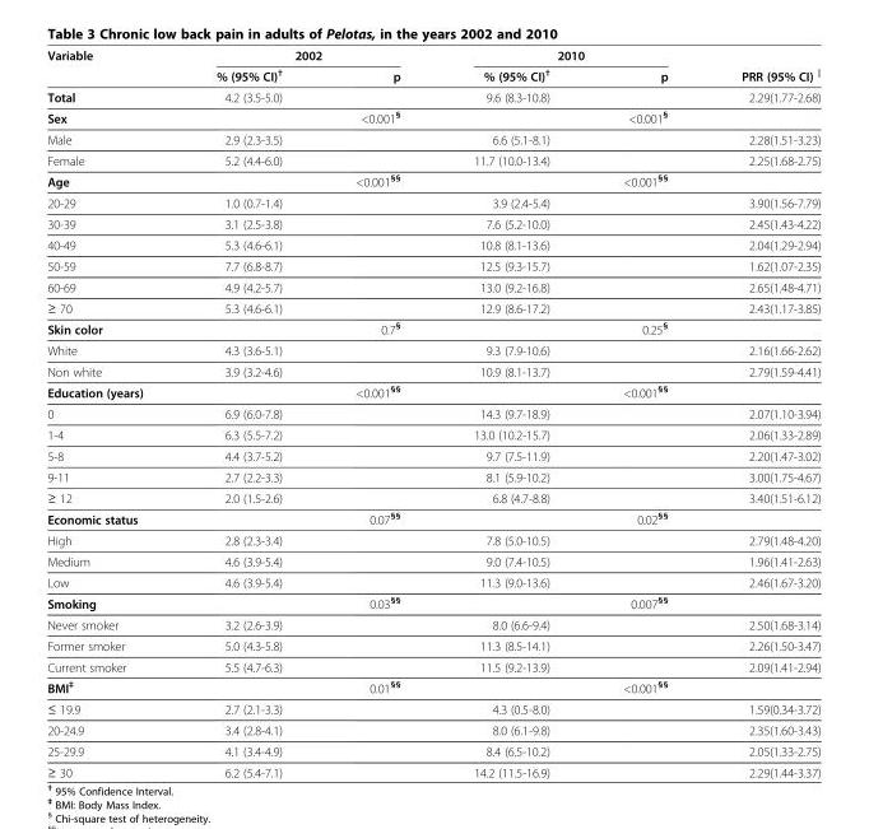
<table><thead><tr><td rowspan="2">Variable</td><td rowspan="2">% (95% CI)<sup>†</sup></td><td rowspan="2">2002 p</td><td rowspan="2">% (95% CI)<sup>†</sup></td><td rowspan="2">2010 p</td><td rowspan="2">PRR (95% CI) <sup>||</sup></td></tr><tr></tr></thead><tbody><tr><td>Total</td><td>4.2 (3.5-5.0)</td><td></td><td>9.6 (8.3-10.8)</td><td></td><td>2.29(1.77-2.68)</td></tr><tr><td>Sex</td><td></td><td>&lt;0.001<sup>§</sup></td><td></td><td>&lt;0.001<sup>§</sup></td><td></td></tr><tr><td>Male</td><td>2.9 (2.3-3.5)</td><td></td><td>6.6 (5.1-8.1)</td><td></td><td>2.28(1.51-3.23)</td></tr><tr><td>Female</td><td>5.2 (4.4-6.0)</td><td></td><td>11.7 (10.0-13.4)</td><td></td><td>2.25(1.68-2.75)</td></tr><tr><td>Age</td><td></td><td>&lt;0.001<sup>§§</sup></td><td></td><td>&lt;0.001<sup>§§</sup></td><td></td></tr><tr><td>20-29</td><td>1.0 (0.7-1.4)</td><td></td><td>3.9 (2.4-5.4)</td><td></td><td>3.90(1.56-7.79)</td></tr><tr><td>30-39</td><td>3.1 (2.5-3.8)</td><td></td><td>7.6 (5.2-10.0)</td><td></td><td>2.45(1.43-4.22)</td></tr><tr><td>40-49</td><td>5.3 (4.6-6.1)</td><td></td><td>10.8 (8.1-13.6)</td><td></td><td>2.04(1.29-2.94)</td></tr><tr><td>50-59</td><td>7.7 (6.8-8.7)</td><td></td><td>12.5 (9.3-15.7)</td><td></td><td>1.62(1.07-2.35)</td></tr><tr><td>60-69</td><td>4.9 (4.2-5.7)</td><td></td><td>13.0 (9.2-16.8)</td><td></td><td>2.65(1.48-4.71)</td></tr><tr><td>≥ 70</td><td>5.3 (4.6-6.1)</td><td></td><td>12.9 (8.6-17.2)</td><td></td><td>2.43(1.17-3.85)</td></tr><tr><td>Skin color</td><td></td><td>0.7<sup>§</sup></td><td></td><td>0.25<sup>§</sup></td><td></td></tr><tr><td>White</td><td>4.3 (3.6-5.1)</td><td></td><td>9.3 (7.9-10.6)</td><td></td><td>2.16(1.66-2.62)</td></tr><tr><td>Non white</td><td>3.9 (3.2-4.6)</td><td></td><td>10.9 (8.1-13.7)</td><td></td><td>2.79(1.59-4.41)</td></tr><tr><td>Education (years)</td><td></td><td>&lt;0.001<sup>§§</sup></td><td></td><td>&lt;0.001<sup>§§</sup></td><td></td></tr><tr><td>0</td><td>6.9 (6.0-7.8)</td><td></td><td>14.3 (9.7-18.9)</td><td></td><td>2.07(1.10-3.94)</td></tr><tr><td>1-4</td><td>6.3 (5.5-7.2)</td><td></td><td>13.0 (10.2-15.7)</td><td></td><td>2.06(1.33-2.89)</td></tr><tr><td>5-8</td><td>4.4 (3.7-5.2)</td><td></td><td>9.7 (7.5-11.9)</td><td></td><td>2.20(1.47-3.02)</td></tr><tr><td>9-11</td><td>2.7 (2.2-3.3)</td><td></td><td>8.1 (5.9-10.2)</td><td></td><td>3.00(1.75-4.67)</td></tr><tr><td>≥ 12</td><td>2.0 (1.5-2.6)</td><td></td><td>6.8 (4.7-8.8)</td><td></td><td>3.40(1.51-6.12)</td></tr><tr><td>Economic status</td><td></td><td>0.07<sup>§§</sup></td><td></td><td>0.02<sup>§§</sup></td><td></td></tr><tr><td>High</td><td>2.8 (2.3-3.4)</td><td></td><td>7.8 (5.0-10.5)</td><td></td><td>2.79(1.48-4.20)</td></tr><tr><td>Medium</td><td>4.6 (3.9-5.4)</td><td></td><td>9.0 (7.4-10.5)</td><td></td><td>1.96(1.41-2.63)</td></tr><tr><td>Low</td><td>4.6 (3.9-5.4)</td><td></td><td>11.3 (9.0-13.6)</td><td></td><td>2.46(1.67-3.20)</td></tr><tr><td>Smoking</td><td></td><td>0.03<sup>§§</sup></td><td></td><td>0.007<sup>§§</sup></td><td></td></tr><tr><td>Never smoker</td><td>3.2 (2.6-3.9)</td><td></td><td>8.0 (6.6-9.4)</td><td></td><td>2.50(1.68-3.14)</td></tr><tr><td>Former smoker</td><td>5.0 (4.3-5.8)</td><td></td><td>11.3 (8.5-14.1)</td><td></td><td>2.26(1.50-3.47)</td></tr><tr><td>Current smoker</td><td>5.5 (4.7-6.3)</td><td></td><td>11.5 (9.2-13.9)</td><td></td><td>2.09(1.41-2.94)</td></tr><tr><td>BMI<sup>‡</sup></td><td></td><td>0.01<sup>§§</sup></td><td></td><td>&lt;0.001<sup>§§</sup></td><td></td></tr><tr><td>≤ 19.9</td><td>2.7 (2.1-3.3)</td><td></td><td>4.3 (0.5-8.0)</td><td></td><td>1.59(0.34-3.72)</td></tr><tr><td>20-24.9</td><td>3.4 (2.8-4.1)</td><td></td><td>8.0 (6.1-9.8)</td><td></td><td>2.35(1.60-3.43)</td></tr><tr><td>25-29.9</td><td>4.1 (3.4-4.9)</td><td></td><td>8.4 (6.5-10.2)</td><td></td><td>2.05(1.33-2.75)</td></tr><tr><td>≥ 30</td><td>6.2 (5.4-7.1)</td><td></td><td>14.2 (11.5-16.9)</td><td></td><td>2.29(1.44-3.37)</td></tr></tbody></table>